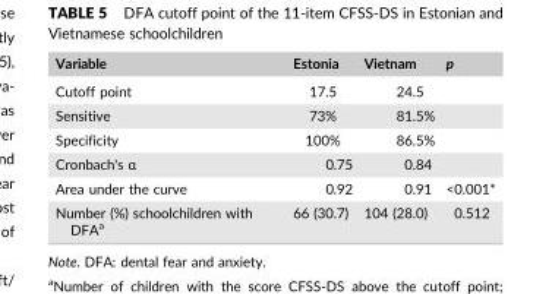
<table><thead><tr><td>Variable</td><td>Estonia</td><td>Vietnam</td><td>p</td></tr></thead><tbody><tr><td>Cutoff point</td><td>17.5</td><td>24.5</td><td></td></tr><tr><td>Sensitive</td><td>73%</td><td>81.5%</td><td></td></tr><tr><td>Specificity</td><td>100%</td><td>86.5%</td><td></td></tr><tr><td>Cronbach&#x27;s α</td><td>0.75</td><td>0.84</td><td></td></tr><tr><td>Area under the curve</td><td>0.92</td><td>0.91</td><td>&lt;0.001*</td></tr><tr><td>Number (%) schoolchildren with DFA<sup>a</sup></td><td>66 (30.7)</td><td>104 (28.0)</td><td>0.512</td></tr></tbody></table>